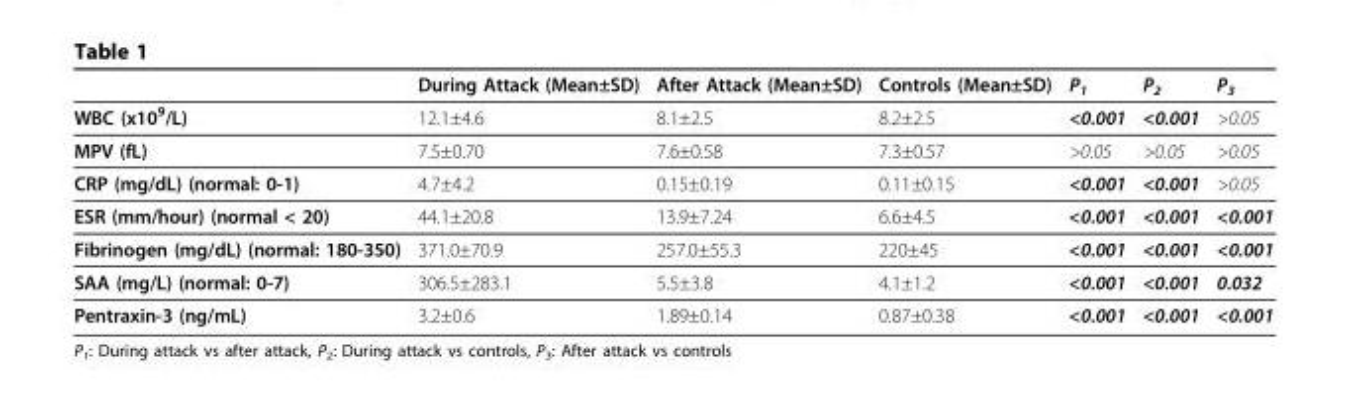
<table><thead><tr><td></td><td>During Attack (Mean±SD)</td><td>After Attack (Mean±SD)</td><td>Controls (Mean±SD)</td><td>P<sub>1</sub></td><td>P<sub>2</sub></td><td>P<sub>3</sub></td></tr></thead><tbody><tr><td>WBC (x10<sup>9</sup>/L)</td><td>12.1±4.6</td><td>8.1±2.5</td><td>8.2±2.5</td><td>&lt;0.001</td><td>&lt;0.001</td><td>&gt;0.05</td></tr><tr><td>MPV (fL)</td><td>7.5±0.70</td><td>7.6±0.58</td><td>7.3±0.57</td><td>&gt;0.05</td><td>&gt;0.05</td><td>&gt;0.05</td></tr><tr><td>CRP (mg/dL) (normal: 0-1)</td><td>4.7±4.2</td><td>0.15±0.19</td><td>0.11±0.15</td><td>&lt;0.001</td><td>&lt;0.001</td><td>&gt;0.05</td></tr><tr><td>ESR (mm/hour) (normal &lt; 20)</td><td>44.1±20.8</td><td>13.9±7.24</td><td>6.6±4.5</td><td>&lt;0.001</td><td>&lt;0.001</td><td>&lt;0.001</td></tr><tr><td>Fibrinogen (mg/dL) (normal: 180-350)</td><td>371.0±70.9</td><td>257.0±55.3</td><td>220±45</td><td>&lt;0.001</td><td>&lt;0.001</td><td>&lt;0.001</td></tr><tr><td>SAA (mg/L) (normal: 0-7)</td><td>306.5±283.1</td><td>5.5±3.8</td><td>4.1±1.2</td><td>&lt;0.001</td><td>&lt;0.001</td><td>0.032</td></tr><tr><td>Pentraxin-3 (ng/mL)</td><td>3.2±0.6</td><td>1.89±0.14</td><td>0.87±0.38</td><td>&lt;0.001</td><td>&lt;0.001</td><td>&lt;0.001</td></tr></tbody></table>